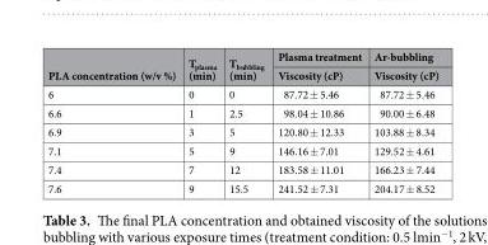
<table><thead><tr><td rowspan="2">PLA concentration (w/v %)</td><td rowspan="2">T<sub>plasma</sub> (min)</td><td rowspan="2">T<sub>bubbling</sub> (min)</td><td rowspan="2">Plasma treatment Viscosity (cP)</td><td rowspan="2">Ar-bubbling Viscosity (cP)</td></tr><tr></tr></thead><tbody><tr><td>6</td><td>0</td><td>0</td><td>87.72 ± 5.46</td><td>87.72 ± 5.46</td></tr><tr><td>6.6</td><td>1</td><td>2.5</td><td>98.04 ± 10.86</td><td>90.00 ± 6.48</td></tr><tr><td>6.9</td><td>3</td><td>5</td><td>120.80 ± 12.33</td><td>103.88 ± 8.34</td></tr><tr><td>7.1</td><td>5</td><td>9</td><td>146.16 ± 7.01</td><td>129.52 ± 4.61</td></tr><tr><td>7.4</td><td>7</td><td>12</td><td>183.58 ± 11.01</td><td>166.23 ± 7.44</td></tr><tr><td>7.6</td><td>9</td><td>15.5</td><td>241.52 ± 7.31</td><td>204.17 ± 8.52</td></tr></tbody></table>